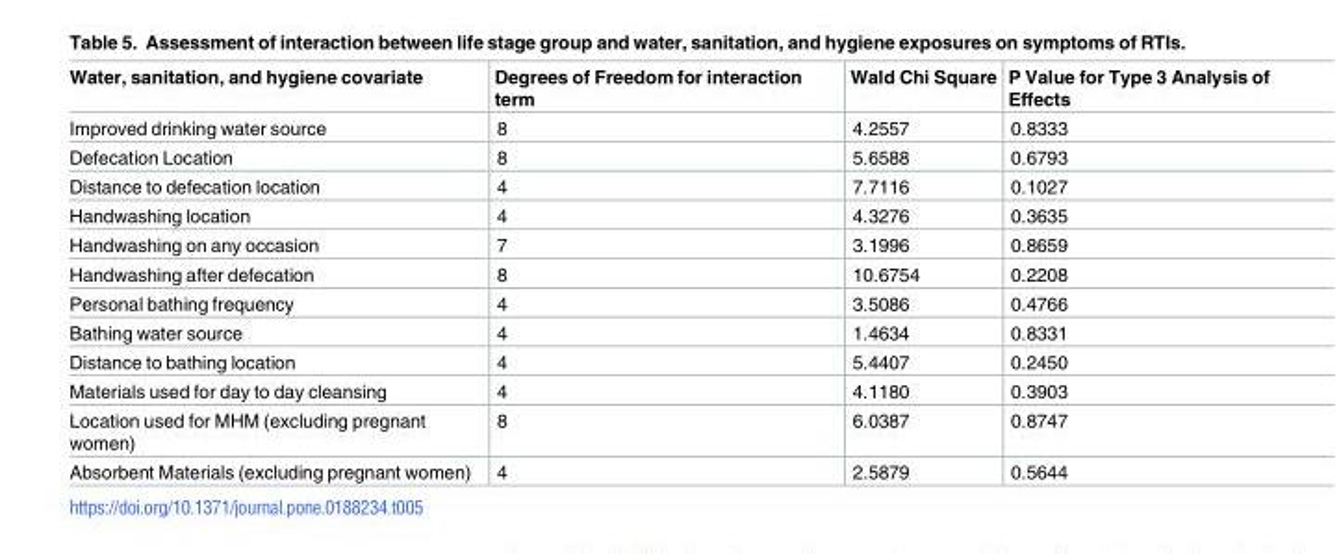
<table><thead><tr><td>Water, sanitation, and hygiene covariate</td><td>Degrees of Freedom for interaction term</td><td>Wald Chi Square</td><td>P Value for Type 3 Analysis of Effects</td></tr></thead><tbody><tr><td>Improved drinking water source</td><td>8</td><td>4.2557</td><td>0.8333</td></tr><tr><td>Defecation Location</td><td>8</td><td>5.6588</td><td>0.6793</td></tr><tr><td>Distance to defecation location</td><td>4</td><td>7.7116</td><td>0.1027</td></tr><tr><td>Handwashing location</td><td>4</td><td>4.3276</td><td>0.3635</td></tr><tr><td>Handwashing on any occasion</td><td>7</td><td>3.1996</td><td>0.8659</td></tr><tr><td>Handwashing after defecation</td><td>8</td><td>10.6754</td><td>0.2208</td></tr><tr><td>Personal bathing frequency</td><td>4</td><td>3.5086</td><td>0.4766</td></tr><tr><td>Bathing water source</td><td>4</td><td>1.4634</td><td>0.8331</td></tr><tr><td>Distance to bathing location</td><td>4</td><td>5.4407</td><td>0.2450</td></tr><tr><td>Materials used for day to day cleansing</td><td>4</td><td>4.1180</td><td>0.3903</td></tr><tr><td>Location used for MHM (excluding pregnant women)</td><td>8</td><td>6.0387</td><td>0.8747</td></tr><tr><td>Absorbent Materials (excluding pregnant women)</td><td>4</td><td>2.5879</td><td>0.5644</td></tr></tbody></table>